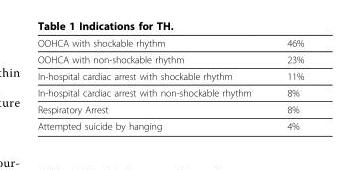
<table><tbody><tr><td>OOHCA with shockable rhythm</td><td>46%</td></tr><tr><td>OOHCA with non-shockable rhythm</td><td>23%</td></tr><tr><td>In-hospital cardiac arrest with shockable rhythm</td><td>11%</td></tr><tr><td>In-hospital cardiac arrest with non-shockable rhythm</td><td>8%</td></tr><tr><td>Respiratory Arrest</td><td>8%</td></tr><tr><td>Attempted suicide by hanging</td><td>4%</td></tr></tbody></table>